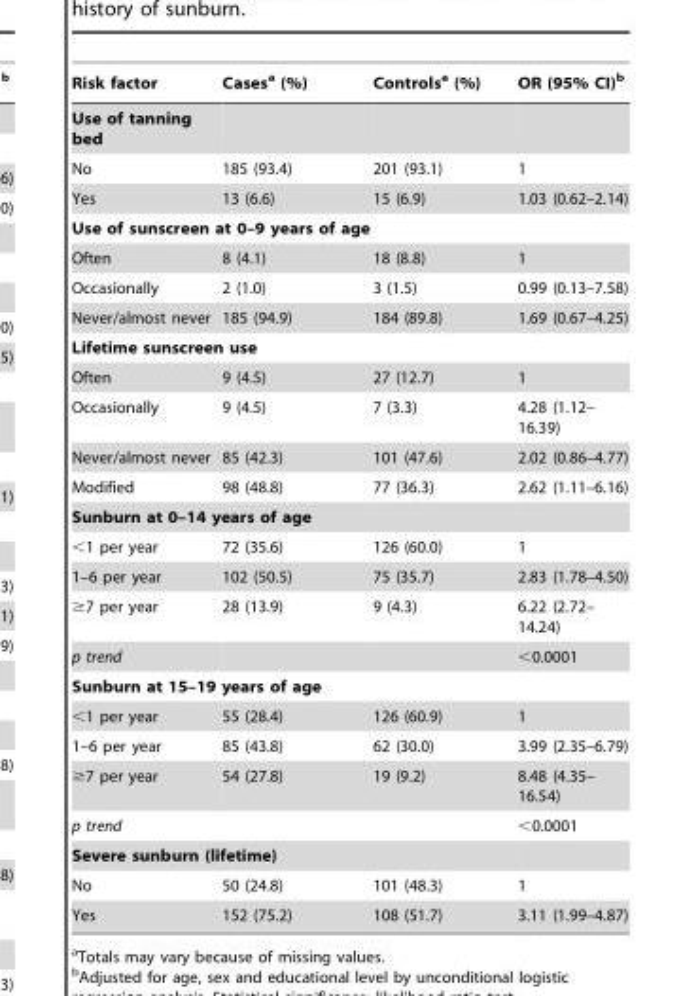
<table><thead><tr><td>Risk factor</td><td>Cases<sup>a</sup> (%)</td><td>Controls<sup>a</sup> (%)</td><td>OR (95% CI)<sup>b</sup></td></tr></thead><tbody><tr><td colspan="4">Use of tanning bed</td></tr><tr><td>No</td><td>185 (93.4)</td><td>201 (93.1)</td><td>1</td></tr><tr><td>Yes</td><td>13 (6.6)</td><td>15 (6.9)</td><td>1.03 (0.62–2.14)</td></tr><tr><td colspan="4">Use of sunscreen at 0–9 years of age</td></tr><tr><td>Often</td><td>8 (4.1)</td><td>18 (8.8)</td><td>1</td></tr><tr><td>Occasionally</td><td>2 (1.0)</td><td>3 (1.5)</td><td>0.99 (0.13–7.58)</td></tr><tr><td>Never/almost never</td><td>185 (94.9)</td><td>184 (89.8)</td><td>1.69 (0.67–4.25)</td></tr><tr><td colspan="4">Lifetime sunscreen use</td></tr><tr><td>Often</td><td>9 (4.5)</td><td>27 (12.7)</td><td>1</td></tr><tr><td>Occasionally</td><td>9 (4.5)</td><td>7 (3.3)</td><td>4.28 (1.12– 16.39)</td></tr><tr><td>Never/almost never</td><td>85 (42.3)</td><td>101 (47.6)</td><td>2.02 (0.86–4.77)</td></tr><tr><td>Modified</td><td>98 (48.8)</td><td>77 (36.3)</td><td>2.62 (1.11–6.16)</td></tr><tr><td colspan="4">Sunburn at 0–14 years of age</td></tr><tr><td>&lt;1 per year</td><td>72 (35.6)</td><td>126 (60.0)</td><td>1</td></tr><tr><td>1–6 per year</td><td>102 (50.5)</td><td>75 (35.7)</td><td>2.83 (1.78–4.50)</td></tr><tr><td>≥7 per year</td><td>28 (13.9)</td><td>9 (4.3)</td><td>6.22 (2.72– 14.24)</td></tr><tr><td>p trend</td><td></td><td></td><td>&lt;0.0001</td></tr><tr><td colspan="4">Sunburn at 15–19 years of age</td></tr><tr><td>&lt;1 per year</td><td>55 (28.4)</td><td>126 (60.9)</td><td>1</td></tr><tr><td>1–6 per year</td><td>85 (43.8)</td><td>62 (30.0)</td><td>3.99 (2.35–6.79)</td></tr><tr><td>≥7 per year</td><td>54 (27.8)</td><td>19 (9.2)</td><td>8.48 (4.35– 16.54)</td></tr><tr><td>p trend</td><td></td><td></td><td>&lt;0.0001</td></tr><tr><td colspan="4">Severe sunburn (lifetime)</td></tr><tr><td>No</td><td>50 (24.8)</td><td>101 (48.3)</td><td>1</td></tr><tr><td>Yes</td><td>152 (75.2)</td><td>108 (51.7)</td><td>3.11 (1.99–4.87)</td></tr></tbody></table>